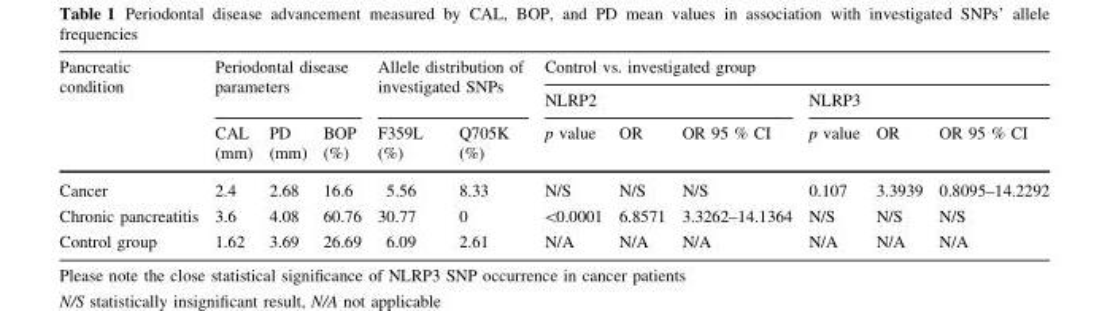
<table><thead><tr><td rowspan="3">Pancreatic condition</td><td rowspan="2" colspan="3">Periodontal disease parameters</td><td rowspan="2" colspan="2">Allele distribution of investigated SNPs</td><td colspan="6">Control vs. investigated group</td></tr><tr><td colspan="3">NLRP2</td><td colspan="3">NLRP3</td></tr><tr><td>CAL (mm)</td><td>PD (mm)</td><td>BOP (%)</td><td>F359L (%)</td><td>Q705K (%)</td><td>p value</td><td>OR</td><td>OR 95 % CI</td><td>p value</td><td>OR</td><td>OR 95 % CI</td></tr></thead><tbody><tr><td>Cancer</td><td>2.4</td><td>2.68</td><td>16.6</td><td>5.56</td><td>8.33</td><td>N/S</td><td>N/S</td><td>N/S</td><td>0.107</td><td>3.3939</td><td>0.8095–14.2292</td></tr><tr><td>Chronic pancreatitis</td><td>3.6</td><td>4.08</td><td>60.76</td><td>30.77</td><td>0</td><td>&lt;0.0001</td><td>6.8571</td><td>3.3262–14.1364</td><td>N/S</td><td>N/S</td><td>N/S</td></tr><tr><td>Control group</td><td>1.62</td><td>3.69</td><td>26.69</td><td>6.09</td><td>2.61</td><td>N/A</td><td>N/A</td><td>N/A</td><td>N/A</td><td>N/A</td><td>N/A</td></tr></tbody></table>